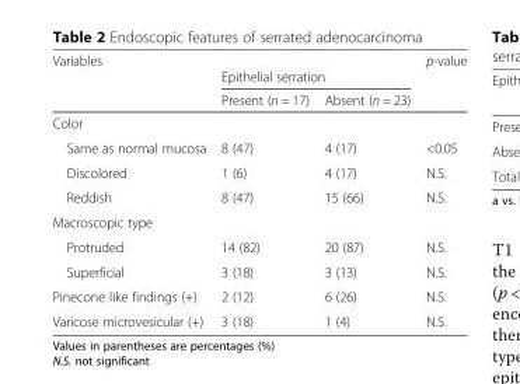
<table><thead><tr><td rowspan="2">Variables</td><td colspan="2">Epithelial serration</td><td rowspan="2">p-value</td></tr><tr><td>Present (n = 17)</td><td>Absent (n = 23)</td></tr></thead><tbody><tr><td colspan="4">Color</td></tr><tr><td>Same as normal mucosa</td><td>8 (47)</td><td>4 (17)</td><td>&lt;0.05</td></tr><tr><td>Discolored</td><td>1 (6)</td><td>4 (17)</td><td>N.S.</td></tr><tr><td>Reddish</td><td>8 (47)</td><td>15 (66)</td><td>N.S.</td></tr><tr><td colspan="4">Macroscopic type</td></tr><tr><td>Protruded</td><td>14 (82)</td><td>20 (87)</td><td>N.S.</td></tr><tr><td>Superficial</td><td>3 (18)</td><td>3 (13)</td><td>N.S.</td></tr><tr><td>Pinecone like findings (+)</td><td>2 (12)</td><td>6 (26)</td><td>N.S.</td></tr><tr><td>Varicose microvesicular (+)</td><td>3 (18)</td><td>1 (4)</td><td>N.S.</td></tr></tbody></table>